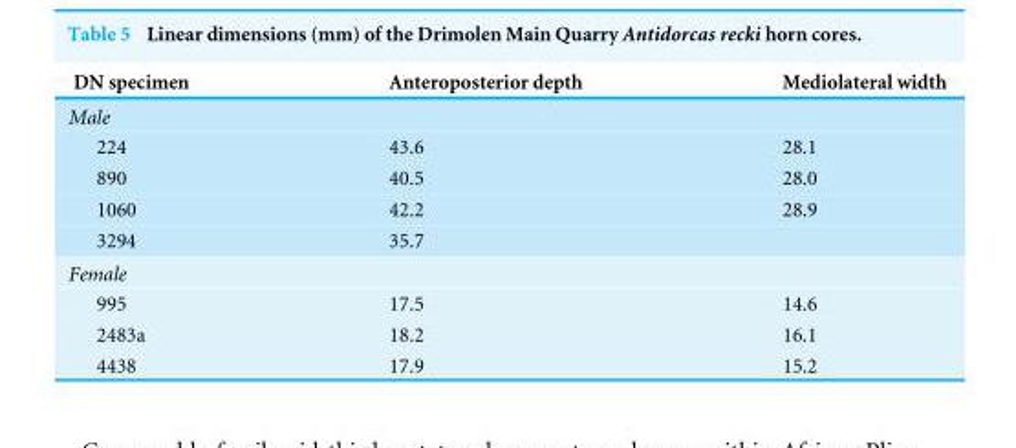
<table><thead><tr><td>DN specimen</td><td>Anteroposterior depth</td><td>Mediolateral width</td></tr></thead><tbody><tr><td colspan="3">Male</td></tr><tr><td>224</td><td>43.6</td><td>28.1</td></tr><tr><td>890</td><td>40.5</td><td>28.0</td></tr><tr><td>1060</td><td>42.2</td><td>28.9</td></tr><tr><td>3294</td><td>35.7</td><td></td></tr><tr><td colspan="3">Female</td></tr><tr><td>995</td><td>17.5</td><td>14.6</td></tr><tr><td>2483a</td><td>18.2</td><td>16.1</td></tr><tr><td>4438</td><td>17.9</td><td>15.2</td></tr></tbody></table>